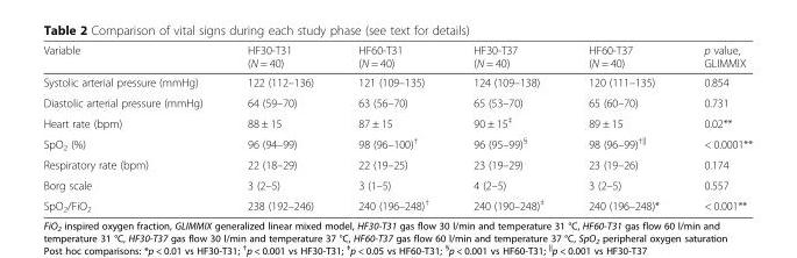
<table><thead><tr><td>Variable</td><td>HF30-T31 (N = 40)</td><td>HF60-T31 (N = 40)</td><td>HF30-T37 (N = 40)</td><td>HF60-T37 (N = 40)</td><td>p value, GLIMMIX</td></tr></thead><tbody><tr><td>Systolic arterial pressure (mmHg)</td><td>122 (112–136)</td><td>121 (109–135)</td><td>124 (109–138)</td><td>120 (111–135)</td><td>0.854</td></tr><tr><td>Diastolic arterial pressure (mmHg)</td><td>64 (59–70)</td><td>63 (56–70)</td><td>65 (53–70)</td><td>65 (60–70)</td><td>0.731</td></tr><tr><td>Heart rate (bpm)</td><td>88 ± 15</td><td>87 ± 15</td><td>90 ± 15<sup>‡</sup></td><td>89 ± 15</td><td>0.02**</td></tr><tr><td>SpO<sub>2</sub> (%)</td><td>96 (94–99)</td><td>98 (96–100)<sup>†</sup></td><td>96 (95–99)<sup>§</sup></td><td>98 (96–99)<sup>†||</sup></td><td>&lt; 0.0001**</td></tr><tr><td>Respiratory rate (bpm)</td><td>22 (18–29)</td><td>22 (19–25)</td><td>23 (19–29)</td><td>23 (19–26)</td><td>0.174</td></tr><tr><td>Borg scale</td><td>3 (2–5)</td><td>3 (1–5)</td><td>4 (2–5)</td><td>3 (2–5)</td><td>0.557</td></tr><tr><td>SpO<sub>2</sub>/FiO<sub>2</sub></td><td>238 (192–246)</td><td>240 (196–248)<sup>†</sup></td><td>240 (190–248)<sup>‡</sup></td><td>240 (196–248)*</td><td>&lt; 0.001**</td></tr></tbody></table>